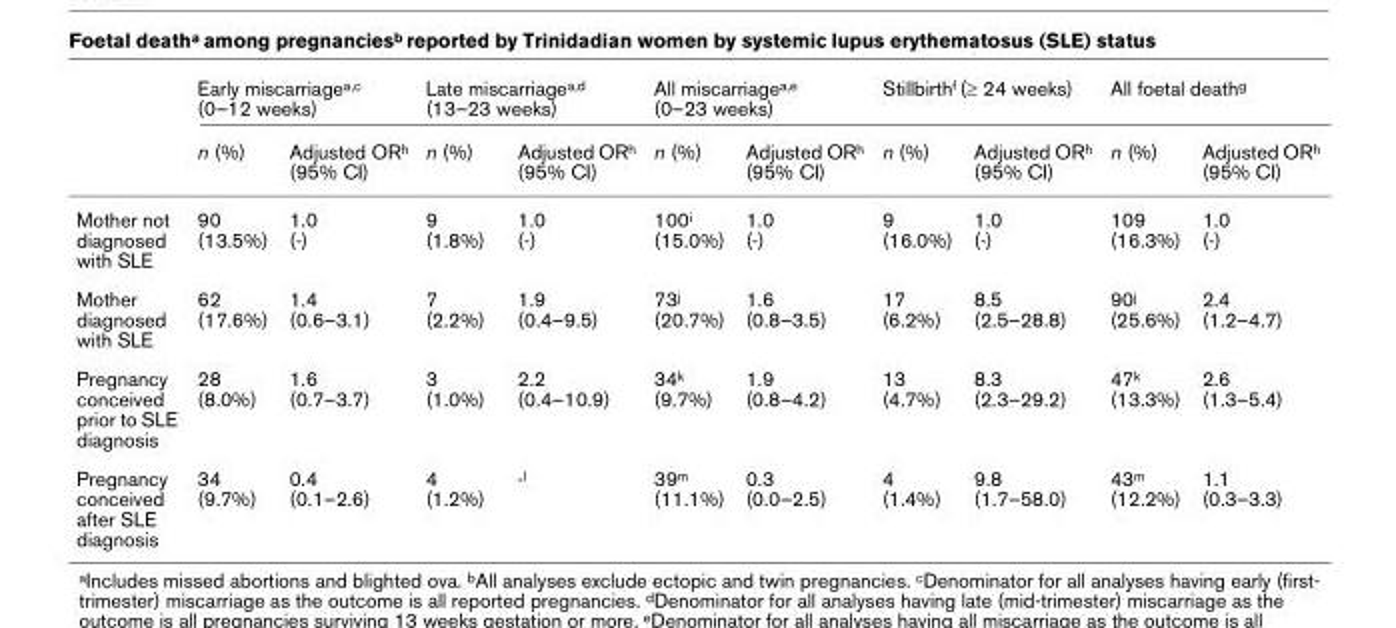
<table><thead><tr><td rowspan="2"></td><td colspan="2">Early miscarriage<sup>a,c</sup> (0–12 weeks)</td><td colspan="2">Late miscarriage<sup>a,d</sup> (13–23 weeks)</td><td colspan="2">All miscarriage<sup>a,e</sup> (0–23 weeks)</td><td colspan="2">Stillbirth<sup>f</sup> (≥ 24 weeks)</td><td colspan="2">All foetal death<sup>g</sup></td></tr><tr><td>n (%)</td><td>Adjusted OR<sup>h</sup> (95% CI)</td><td>n (%)</td><td>Adjusted OR<sup>h</sup> (95% CI)</td><td>n (%)</td><td>Adjusted OR<sup>h</sup> (95% CI)</td><td>n (%)</td><td>Adjusted OR<sup>h</sup> (95% CI)</td><td>n (%)</td><td>Adjusted OR<sup>h</sup> (95% CI)</td></tr></thead><tbody><tr><td>Mother not diagnosed with SLE</td><td>90 (13.5%)</td><td>1.0 (-)</td><td>9 (1.8%)</td><td>1.0 (-)</td><td>100<sup>i</sup> (15.0%)</td><td>1.0 (-)</td><td>9 (16.0%)</td><td>1.0 (-)</td><td>109 (16.3%)</td><td>1.0 (-)</td></tr><tr><td>Mother diagnosed with SLE</td><td>62 (17.6%)</td><td>1.4 (0.6–3.1)</td><td>7 (2.2%)</td><td>1.9 (0.4–9.5)</td><td>73<sup>j</sup> (20.7%)</td><td>1.6 (0.8–3.5)</td><td>17 (6.2%)</td><td>8.5 (2.5–28.8)</td><td>90<sup>j</sup> (25.6%)</td><td>2.4 (1.2–4.7)</td></tr><tr><td>Pregnancy conceived prior to SLE diagnosis</td><td>28 (8.0%)</td><td>1.6 (0.7–3.7)</td><td>3 (1.0%)</td><td>2.2 (0.4–10.9)</td><td>34<sup>k</sup> (9.7%)</td><td>1.9 (0.8–4.2)</td><td>13 (4.7%)</td><td>8.3 (2.3–29.2)</td><td>47<sup>k</sup> (13.3%)</td><td>2.6 (1.3–5.4)</td></tr><tr><td>Pregnancy conceived after SLE diagnosis</td><td>34 (9.7%)</td><td>0.4 (0.1–2.6)</td><td>4 (1.2%)</td><td>-<sup>l</sup></td><td>39<sup>m</sup> (11.1%)</td><td>0.3 (0.0–2.5)</td><td>4 (1.4%)</td><td>9.8 (1.7–58.0)</td><td>43<sup>m</sup> (12.2%)</td><td>1.1 (0.3–3.3)</td></tr></tbody></table>